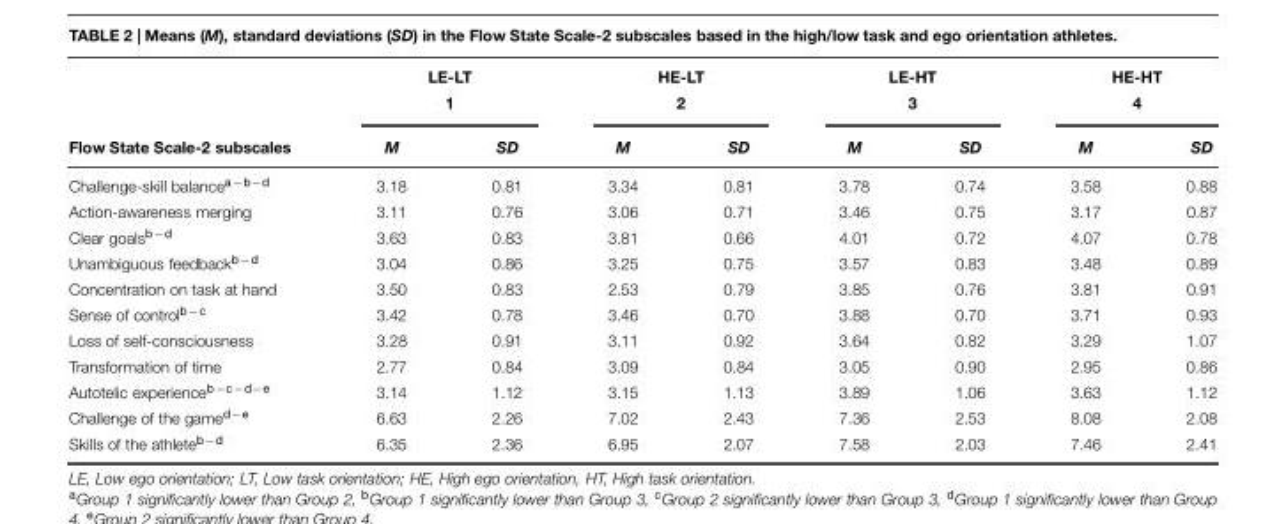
<table><thead><tr><td rowspan="3">Flow State Scale-2 subscales</td><td rowspan="2" colspan="2">LE-LT 1</td><td rowspan="2" colspan="2">HE-LT 2</td><td rowspan="2" colspan="2">LE-HT 3</td><td rowspan="2" colspan="2">HE-HT 4</td></tr><tr></tr><tr><td>M</td><td>SD</td><td>M</td><td>SD</td><td>M</td><td>SD</td><td>M</td><td>SD</td></tr></thead><tbody><tr><td>Challenge-skill balance<sup>a−b−d</sup></td><td>3.18</td><td>0.81</td><td>3.34</td><td>0.81</td><td>3.78</td><td>0.74</td><td>3.58</td><td>0.88</td></tr><tr><td>Action-awareness merging</td><td>3.11</td><td>0.76</td><td>3.06</td><td>0.71</td><td>3.46</td><td>0.75</td><td>3.17</td><td>0.87</td></tr><tr><td>Clear goals<sup>b−d</sup></td><td>3.63</td><td>0.83</td><td>3.81</td><td>0.66</td><td>4.01</td><td>0.72</td><td>4.07</td><td>0.78</td></tr><tr><td>Unambiguous feedback<sup>b−d</sup></td><td>3.04</td><td>0.86</td><td>3.25</td><td>0.75</td><td>3.57</td><td>0.83</td><td>3.48</td><td>0.89</td></tr><tr><td>Concentration on task at hand</td><td>3.50</td><td>0.83</td><td>2.53</td><td>0.79</td><td>3.85</td><td>0.76</td><td>3.81</td><td>0.91</td></tr><tr><td>Sense of control<sup>b−c</sup></td><td>3.42</td><td>0.78</td><td>3.46</td><td>0.70</td><td>3.88</td><td>0.70</td><td>3.71</td><td>0.93</td></tr><tr><td>Loss of self-consciousness</td><td>3.28</td><td>0.91</td><td>3.11</td><td>0.92</td><td>3.64</td><td>0.82</td><td>3.29</td><td>1.07</td></tr><tr><td>Transformation of time</td><td>2.77</td><td>0.84</td><td>3.09</td><td>0.84</td><td>3.05</td><td>0.90</td><td>2.95</td><td>0.86</td></tr><tr><td>Autotelic experience<sup>b −c−d−e</sup></td><td>3.14</td><td>1.12</td><td>3.15</td><td>1.13</td><td>3.89</td><td>1.06</td><td>3.63</td><td>1.12</td></tr><tr><td>Challenge of the game<sup>d−e</sup></td><td>6.63</td><td>2.26</td><td>7.02</td><td>2.43</td><td>7.36</td><td>2.53</td><td>8.08</td><td>2.08</td></tr><tr><td>Skills of the athlete<sup>b−d</sup></td><td>6.35</td><td>2.36</td><td>6.95</td><td>2.07</td><td>7.58</td><td>2.03</td><td>7.46</td><td>2.41</td></tr></tbody></table>